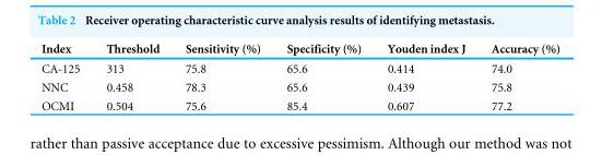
<table><thead><tr><td>Index</td><td>Threshold</td><td>Sensitivity (%)</td><td>Specificity (%)</td><td>Youden index J</td><td>Accuracy (%)</td></tr></thead><tbody><tr><td>CA-125</td><td>313</td><td>75.8</td><td>65.6</td><td>0.414</td><td>74.0</td></tr><tr><td>NNC</td><td>0.458</td><td>78.3</td><td>65.6</td><td>0.439</td><td>75.8</td></tr><tr><td>OCMI</td><td>0.504</td><td>75.6</td><td>85.4</td><td>0.607</td><td>77.2</td></tr></tbody></table>